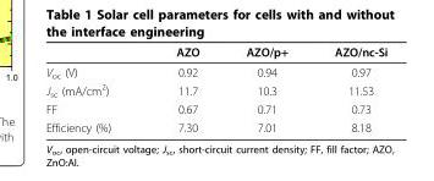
<table><thead><tr><td></td><td>AZO</td><td>AZO/p+</td><td>AZO/nc-Si</td></tr></thead><tbody><tr><td>V<sub>oc</sub> (V)</td><td>0.92</td><td>0.94</td><td>0.97</td></tr><tr><td>J<sub>sc</sub> (mA/cm<sup>2</sup>)</td><td>11.7</td><td>10.3</td><td>11.53</td></tr><tr><td>FF</td><td>0.67</td><td>0.71</td><td>0.73</td></tr><tr><td>Efficiency (%)</td><td>7.30</td><td>7.01</td><td>8.18</td></tr></tbody></table>